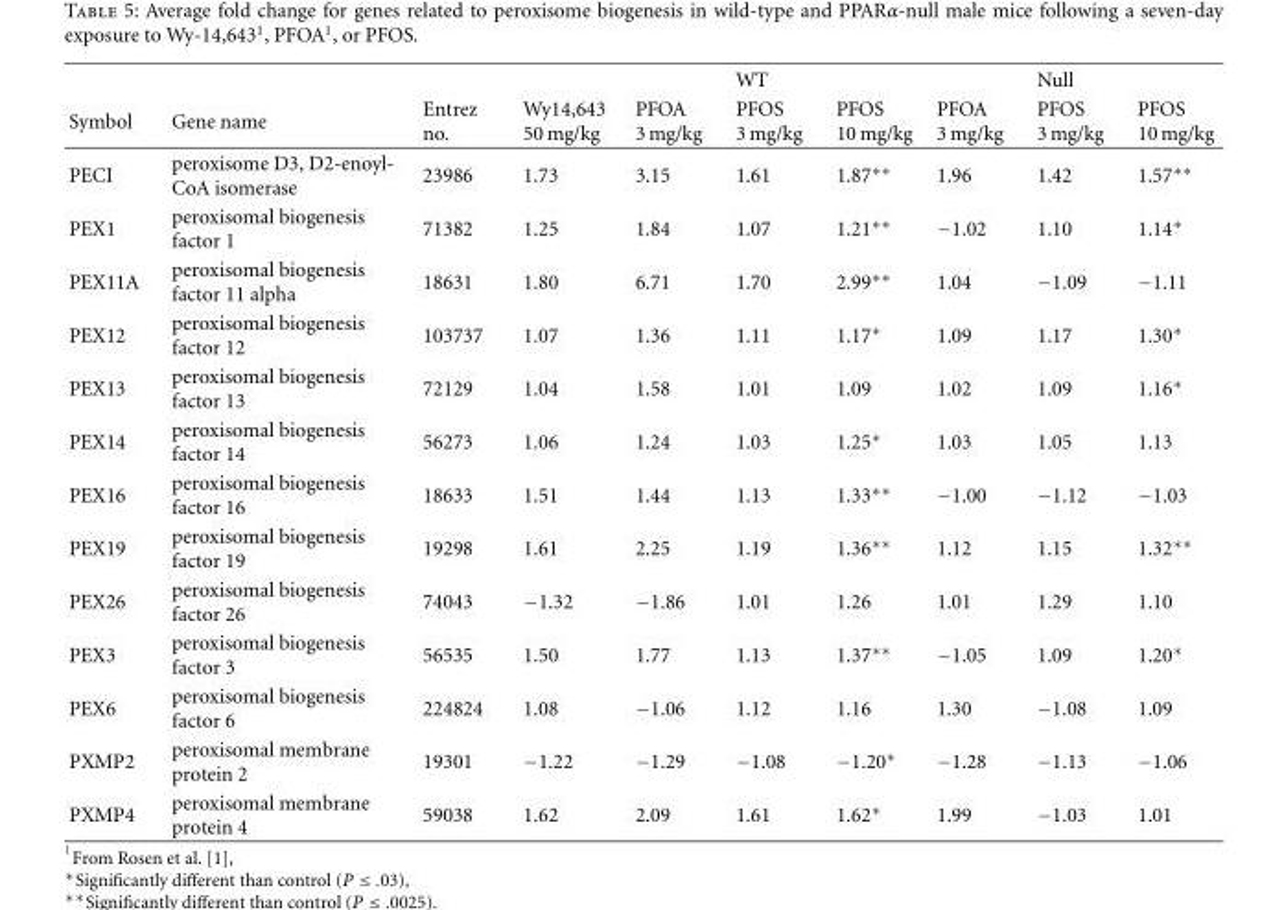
<table><thead><tr><td rowspan="2">Symbol</td><td rowspan="2">Gene name</td><td rowspan="2">Entrez no.</td><td rowspan="2">Wy14,643 50 mg/kg</td><td rowspan="2">PFOA 3 mg/kg</td><td rowspan="2">WT PFOS 3 mg/kg</td><td rowspan="2">PFOS 10 mg/kg</td><td rowspan="2">PFOA 3 mg/kg</td><td rowspan="2">Null PFOS 3 mg/kg</td><td rowspan="2">PFOS 10 mg/kg</td></tr><tr></tr></thead><tbody><tr><td>PECI</td><td>peroxisome D3, D2-enoyl- CoA isomerase</td><td>23986</td><td>1.73</td><td>3.15</td><td>1.61</td><td>1.87∗∗</td><td>1.96</td><td>1.42</td><td>1.57∗∗</td></tr><tr><td>PEX1</td><td>peroxisomal biogenesis factor 1</td><td>71382</td><td>1.25</td><td>1.84</td><td>1.07</td><td>1.21∗∗</td><td>−1.02</td><td>1.10</td><td>1.14∗</td></tr><tr><td>PEX11A</td><td>peroxisomal biogenesis factor 11 alpha</td><td>18631</td><td>1.80</td><td>6.71</td><td>1.70</td><td>2.99∗∗</td><td>1.04</td><td>−1.09</td><td>−1.11</td></tr><tr><td>PEX12</td><td>peroxisomal biogenesis factor 12</td><td>103737</td><td>1.07</td><td>1.36</td><td>1.11</td><td>1.17∗</td><td>1.09</td><td>1.17</td><td>1.30∗</td></tr><tr><td>PEX13</td><td>peroxisomal biogenesis factor 13</td><td>72129</td><td>1.04</td><td>1.58</td><td>1.01</td><td>1.09</td><td>1.02</td><td>1.09</td><td>1.16∗</td></tr><tr><td>PEX14</td><td>peroxisomal biogenesis factor 14</td><td>56273</td><td>1.06</td><td>1.24</td><td>1.03</td><td>1.25∗</td><td>1.03</td><td>1.05</td><td>1.13</td></tr><tr><td>PEX16</td><td>peroxisomal biogenesis factor 16</td><td>18633</td><td>1.51</td><td>1.44</td><td>1.13</td><td>1.33∗∗</td><td>−1.00</td><td>−1.12</td><td>−1.03</td></tr><tr><td>PEX19</td><td>peroxisomal biogenesis factor 19</td><td>19298</td><td>1.61</td><td>2.25</td><td>1.19</td><td>1.36∗∗</td><td>1.12</td><td>1.15</td><td>1.32∗∗</td></tr><tr><td>PEX26</td><td>peroxisomal biogenesis factor 26</td><td>74043</td><td>−1.32</td><td>−1.86</td><td>1.01</td><td>1.26</td><td>1.01</td><td>1.29</td><td>1.10</td></tr><tr><td>PEX3</td><td>peroxisomal biogenesis factor 3</td><td>56535</td><td>1.50</td><td>1.77</td><td>1.13</td><td>1.37∗∗</td><td>−1.05</td><td>1.09</td><td>1.20∗</td></tr><tr><td>PEX6</td><td>peroxisomal biogenesis factor 6</td><td>224824</td><td>1.08</td><td>−1.06</td><td>1.12</td><td>1.16</td><td>1.30</td><td>−1.08</td><td>1.09</td></tr><tr><td>PXMP2</td><td>peroxisomal membrane protein 2</td><td>19301</td><td>−1.22</td><td>−1.29</td><td>−1.08</td><td>−1.20∗</td><td>−1.28</td><td>−1.13</td><td>−1.06</td></tr><tr><td>PXMP4</td><td>peroxisomal membrane protein 4</td><td>59038</td><td>1.62</td><td>2.09</td><td>1.61</td><td>1.62∗</td><td>1.99</td><td>−1.03</td><td>1.01</td></tr></tbody></table>